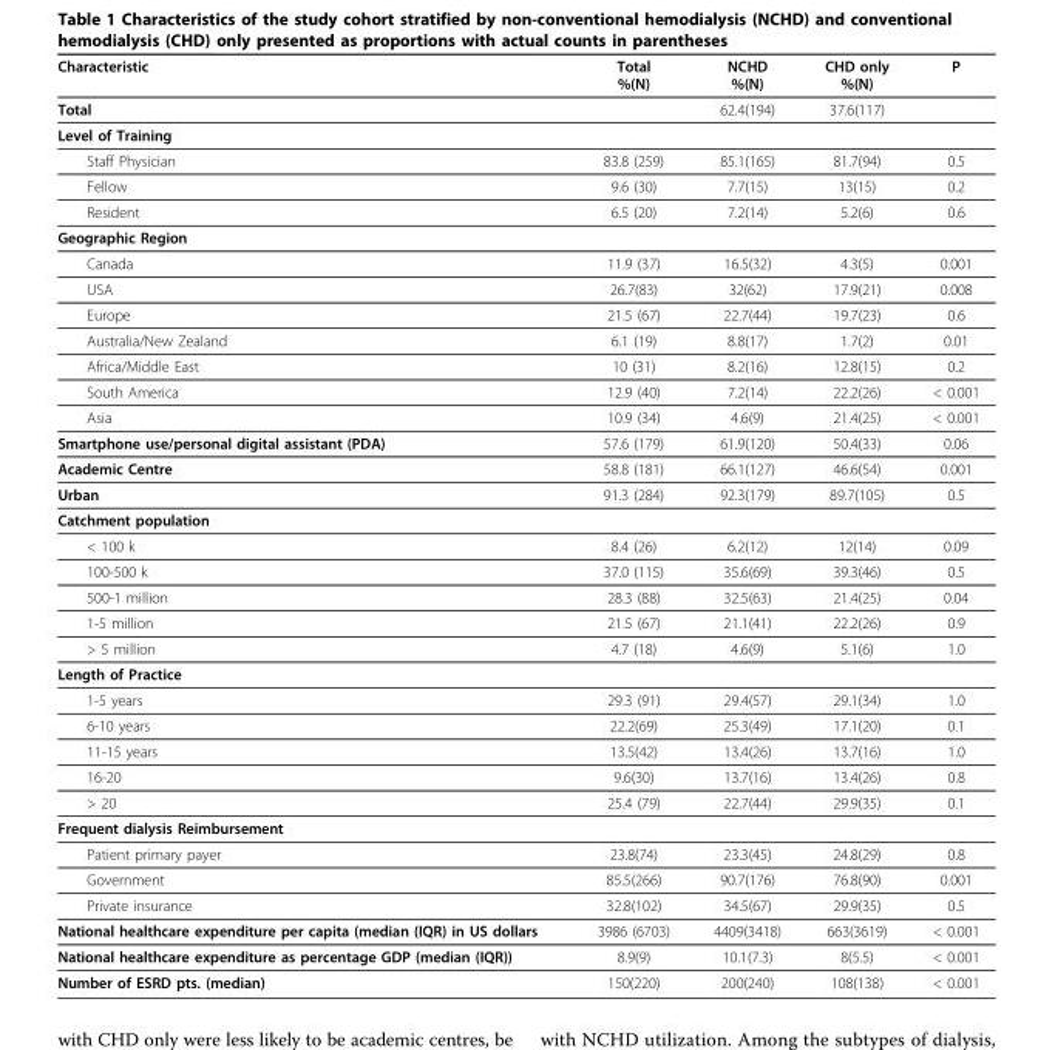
<table><thead><tr><td>Characteristic</td><td>Total %(N)</td><td>NCHD %(N)</td><td>CHD only %(N)</td><td>P</td></tr></thead><tbody><tr><td>Total</td><td></td><td>62.4(194)</td><td>37.6(117)</td><td></td></tr><tr><td colspan="5">Level of Training</td></tr><tr><td>Staff Physician</td><td>83.8 (259)</td><td>85.1(165)</td><td>81.7(94)</td><td>0.5</td></tr><tr><td>Fellow</td><td>9.6 (30)</td><td>7.7(15)</td><td>13(15)</td><td>0.2</td></tr><tr><td>Resident</td><td>6.5 (20)</td><td>7.2(14)</td><td>5.2(6)</td><td>0.6</td></tr><tr><td colspan="5">Geographic Region</td></tr><tr><td>Canada</td><td>11.9 (37)</td><td>16.5(32)</td><td>4.3(5)</td><td>0.001</td></tr><tr><td>USA</td><td>26.7(83)</td><td>32(62)</td><td>17.9(21)</td><td>0.008</td></tr><tr><td>Europe</td><td>21.5 (67)</td><td>22.7(44)</td><td>19.7(23)</td><td>0.6</td></tr><tr><td>Australia/New Zealand</td><td>6.1 (19)</td><td>8.8(17)</td><td>1.7(2)</td><td>0.01</td></tr><tr><td>Africa/Middle East</td><td>10 (31)</td><td>8.2(16)</td><td>12.8(15)</td><td>0.2</td></tr><tr><td>South America</td><td>12.9 (40)</td><td>7.2(14)</td><td>22.2(26)</td><td>&lt; 0.001</td></tr><tr><td>Asia</td><td>10.9 (34)</td><td>4.6(9)</td><td>21.4(25)</td><td>&lt; 0.001</td></tr><tr><td>Smartphone use/personal digital assistant (PDA)</td><td>57.6 (179)</td><td>61.9(120)</td><td>50.4(33)</td><td>0.06</td></tr><tr><td>Academic Centre</td><td>58.8 (181)</td><td>66.1(127)</td><td>46.6(54)</td><td>0.001</td></tr><tr><td>Urban</td><td>91.3 (284)</td><td>92.3(179)</td><td>89.7(105)</td><td>0.5</td></tr><tr><td colspan="5">Catchment population</td></tr><tr><td>&lt; 100 k</td><td>8.4 (26)</td><td>6.2(12)</td><td>12(14)</td><td>0.09</td></tr><tr><td>100-500 k</td><td>37.0 (115)</td><td>35.6(69)</td><td>39.3(46)</td><td>0.5</td></tr><tr><td>500-1 million</td><td>28.3 (88)</td><td>32.5(63)</td><td>21.4(25)</td><td>0.04</td></tr><tr><td>1-5 million</td><td>21.5 (67)</td><td>21.1(41)</td><td>22.2(26)</td><td>0.9</td></tr><tr><td>&gt; 5 million</td><td>4.7 (18)</td><td>4.6(9)</td><td>5.1(6)</td><td>1.0</td></tr><tr><td colspan="5">Length of Practice</td></tr><tr><td>1-5 years</td><td>29.3 (91)</td><td>29.4(57)</td><td>29.1(34)</td><td>1.0</td></tr><tr><td>6-10 years</td><td>22.2(69)</td><td>25.3(49)</td><td>17.1(20)</td><td>0.1</td></tr><tr><td>11-15 years</td><td>13.5(42)</td><td>13.4(26)</td><td>13.7(16)</td><td>1.0</td></tr><tr><td>16-20</td><td>9.6(30)</td><td>13.7(16)</td><td>13.4(26)</td><td>0.8</td></tr><tr><td>&gt; 20</td><td>25.4 (79)</td><td>22.7(44)</td><td>29.9(35)</td><td>0.1</td></tr><tr><td colspan="5">Frequent dialysis Reimbursement</td></tr><tr><td>Patient primary payer</td><td>23.8(74)</td><td>23.3(45)</td><td>24.8(29)</td><td>0.8</td></tr><tr><td>Government</td><td>85.5(266)</td><td>90.7(176)</td><td>76.8(90)</td><td>0.001</td></tr><tr><td>Private insurance</td><td>32.8(102)</td><td>34.5(67)</td><td>29.9(35)</td><td>0.5</td></tr><tr><td>National healthcare expenditure per capita (median (IQR) in US dollars</td><td>3986 (6703)</td><td>4409(3418)</td><td>663(3619)</td><td>&lt; 0.001</td></tr><tr><td>National healthcare expenditure as percentage GDP (median (IQR))</td><td>8.9(9)</td><td>10.1(7.3)</td><td>8(5.5)</td><td>&lt; 0.001</td></tr><tr><td>Number of ESRD pts. (median)</td><td>150(220)</td><td>200(240)</td><td>108(138)</td><td>&lt; 0.001</td></tr></tbody></table>